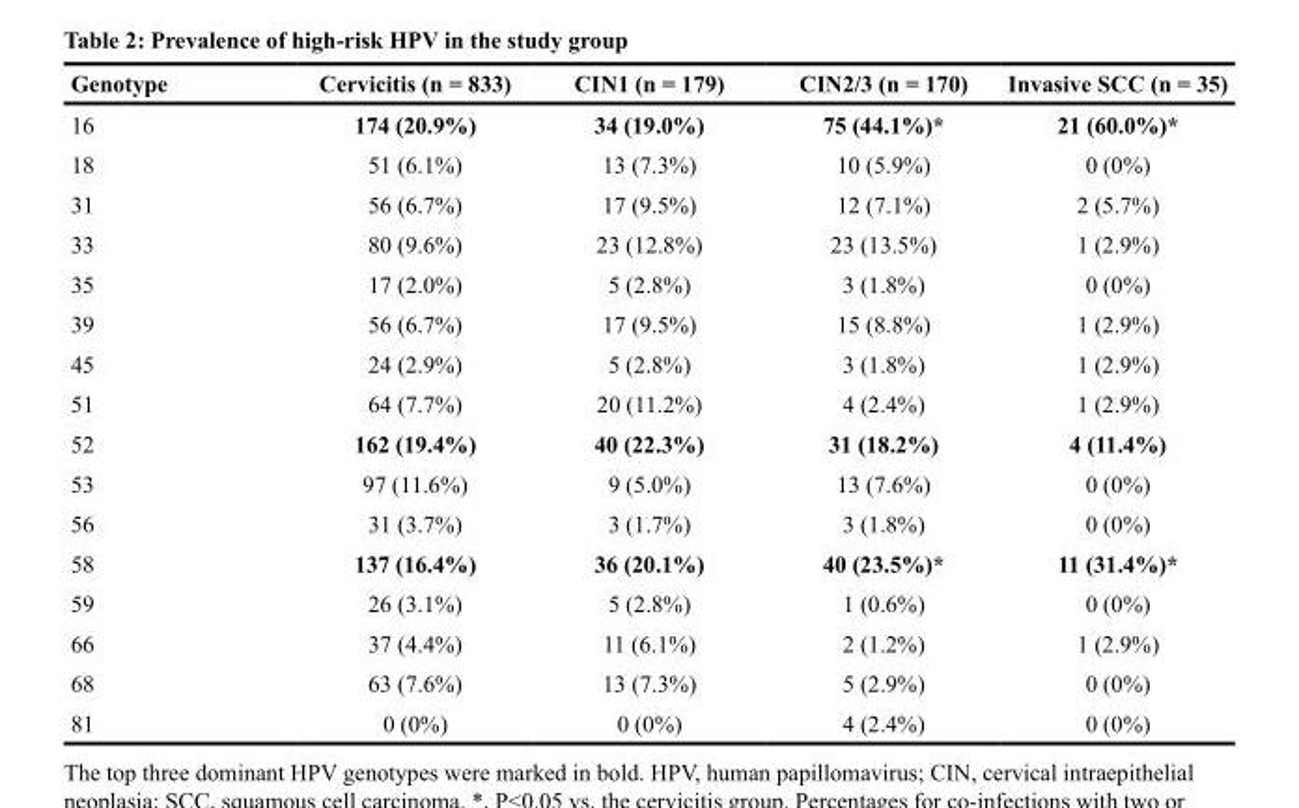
<table><thead><tr><td>Genotype</td><td>Cervicitis (n = 833)</td><td>CIN1 (n = 179)</td><td>CIN2/3 (n = 170)</td><td>Invasive SCC (n = 35)</td></tr></thead><tbody><tr><td>16</td><td>174 (20.9%)</td><td>34 (19.0%)</td><td>75 (44.1%)*</td><td>21 (60.0%)*</td></tr><tr><td>18</td><td>51 (6.1%)</td><td>13 (7.3%)</td><td>10 (5.9%)</td><td>0 (0%)</td></tr><tr><td>31</td><td>56 (6.7%)</td><td>17 (9.5%)</td><td>12 (7.1%)</td><td>2 (5.7%)</td></tr><tr><td>33</td><td>80 (9.6%)</td><td>23 (12.8%)</td><td>23 (13.5%)</td><td>1 (2.9%)</td></tr><tr><td>35</td><td>17 (2.0%)</td><td>5 (2.8%)</td><td>3 (1.8%)</td><td>0 (0%)</td></tr><tr><td>39</td><td>56 (6.7%)</td><td>17 (9.5%)</td><td>15 (8.8%)</td><td>1 (2.9%)</td></tr><tr><td>45</td><td>24 (2.9%)</td><td>5 (2.8%)</td><td>3 (1.8%)</td><td>1 (2.9%)</td></tr><tr><td>51</td><td>64 (7.7%)</td><td>20 (11.2%)</td><td>4 (2.4%)</td><td>1 (2.9%)</td></tr><tr><td>52</td><td>162 (19.4%)</td><td>40 (22.3%)</td><td>31 (18.2%)</td><td>4 (11.4%)</td></tr><tr><td>53</td><td>97 (11.6%)</td><td>9 (5.0%)</td><td>13 (7.6%)</td><td>0 (0%)</td></tr><tr><td>56</td><td>31 (3.7%)</td><td>3 (1.7%)</td><td>3 (1.8%)</td><td>0 (0%)</td></tr><tr><td>58</td><td>137 (16.4%)</td><td>36 (20.1%)</td><td>40 (23.5%)*</td><td>11 (31.4%)*</td></tr><tr><td>59</td><td>26 (3.1%)</td><td>5 (2.8%)</td><td>1 (0.6%)</td><td>0 (0%)</td></tr><tr><td>66</td><td>37 (4.4%)</td><td>11 (6.1%)</td><td>2 (1.2%)</td><td>1 (2.9%)</td></tr><tr><td>68</td><td>63 (7.6%)</td><td>13 (7.3%)</td><td>5 (2.9%)</td><td>0 (0%)</td></tr><tr><td>81</td><td>0 (0%)</td><td>0 (0%)</td><td>4 (2.4%)</td><td>0 (0%)</td></tr></tbody></table>